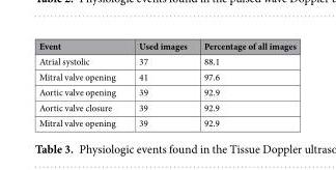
<table><thead><tr><td>Event</td><td>Used images</td><td>Percentage of all images</td></tr></thead><tbody><tr><td>Atrial systolic</td><td>37</td><td>88.1</td></tr><tr><td>Mitral valve opening</td><td>41</td><td>97.6</td></tr><tr><td>Aortic valve opening</td><td>39</td><td>92.9</td></tr><tr><td>Aortic valve closure</td><td>39</td><td>92.9</td></tr><tr><td>Mitral valve opening</td><td>39</td><td>92.9</td></tr></tbody></table>